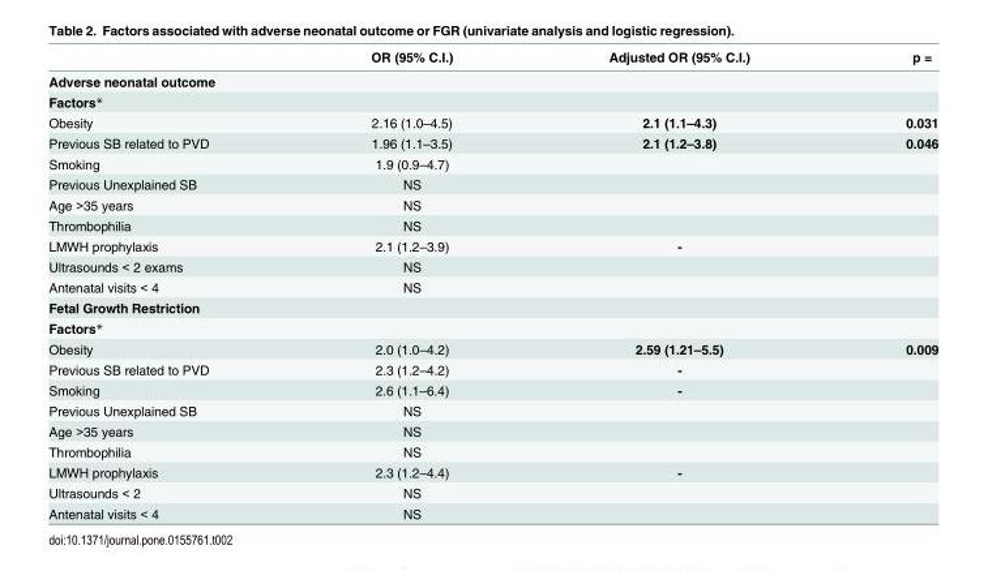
<table><thead><tr><td></td><td>OR (95% C.I.)</td><td>Adjusted OR (95% C.I.)</td><td>p =</td></tr></thead><tbody><tr><td colspan="4">Adverse neonatal outcome</td></tr><tr><td colspan="4">Factors*</td></tr><tr><td>Obesity</td><td>2.16 (1.0–4.5)</td><td>2.1 (1.1–4.3)</td><td>0.031</td></tr><tr><td>Previous SB related to PVD</td><td>1.96 (1.1–3.5)</td><td>2.1 (1.2–3.8)</td><td>0.046</td></tr><tr><td>Smoking</td><td>1.9 (0.9–4.7)</td><td></td><td></td></tr><tr><td>Previous Unexplained SB</td><td>NS</td><td></td><td></td></tr><tr><td>Age &gt;35 years</td><td>NS</td><td></td><td></td></tr><tr><td>Thrombophilia</td><td>NS</td><td></td><td></td></tr><tr><td>LMWH prophylaxis</td><td>2.1 (1.2–3.9)</td><td>-</td><td></td></tr><tr><td>Ultrasounds &lt; 2 exams</td><td>NS</td><td></td><td></td></tr><tr><td>Antenatal visits &lt; 4</td><td>NS</td><td></td><td></td></tr><tr><td colspan="4">Fetal Growth Restriction</td></tr><tr><td colspan="4">Factors*</td></tr><tr><td>Obesity</td><td>2.0 (1.0–4.2)</td><td>2.59 (1.21–5.5)</td><td>0.009</td></tr><tr><td>Previous SB related to PVD</td><td>2.3 (1.2–4.2)</td><td>-</td><td></td></tr><tr><td>Smoking</td><td>2.6 (1.1–6.4)</td><td>-</td><td></td></tr><tr><td>Previous Unexplained SB</td><td>NS</td><td></td><td></td></tr><tr><td>Age &gt;35 years</td><td>NS</td><td></td><td></td></tr><tr><td>Thrombophilia</td><td>NS</td><td></td><td></td></tr><tr><td>LMWH prophylaxis</td><td>2.3 (1.2–4.4)</td><td>-</td><td></td></tr><tr><td>Ultrasounds &lt; 2</td><td>NS</td><td></td><td></td></tr><tr><td>Antenatal visits &lt; 4</td><td>NS</td><td></td><td></td></tr></tbody></table>